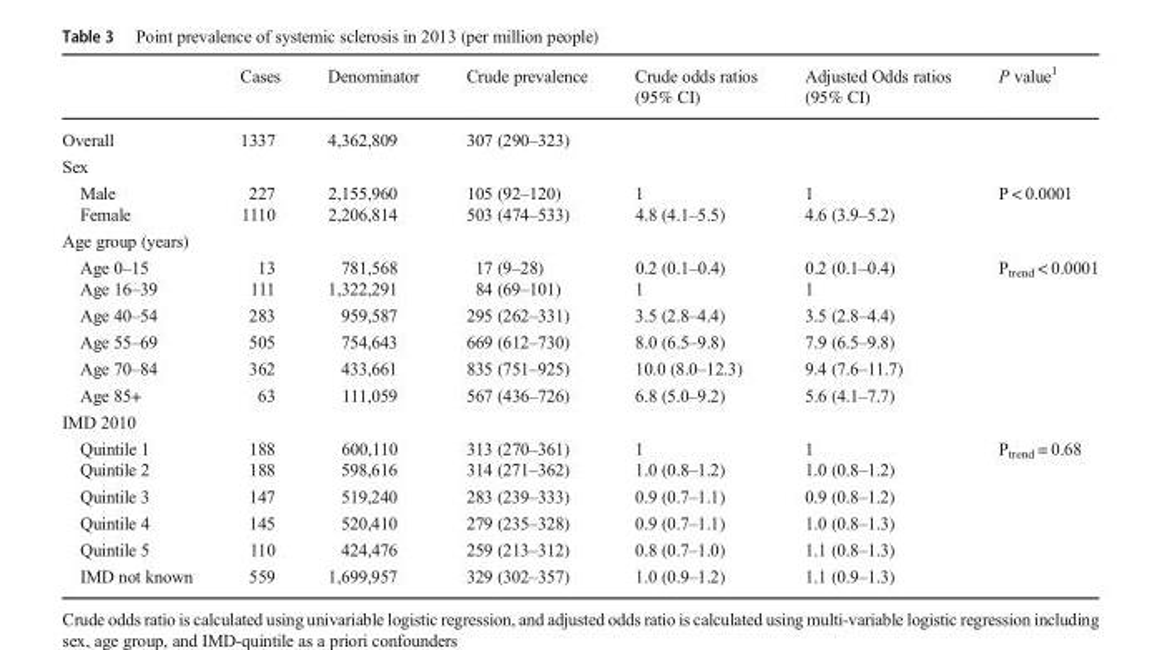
<table><thead><tr><td></td><td>Cases</td><td>Denominator</td><td>Crude prevalence</td><td>Crude odds ratios (95% CI)</td><td>Adjusted Odds ratios (95% CI)</td><td>P value<sup>1</sup></td></tr></thead><tbody><tr><td>Overall</td><td>1337</td><td>4,362,809</td><td>307 (290–323)</td><td></td><td></td><td></td></tr><tr><td colspan="7">Sex</td></tr><tr><td>Male</td><td>227</td><td>2,155,960</td><td>105 (92–120)</td><td>1</td><td>1</td><td rowspan="2">P &lt; 0.0001</td></tr><tr><td>Female</td><td>1110</td><td>2,206,814</td><td>503 (474–533)</td><td>4.8 (4.1–5.5)</td><td>4.6 (3.9–5.2)</td></tr><tr><td colspan="7">Age group (years)</td></tr><tr><td>Age 0–15</td><td>13</td><td>781,568</td><td>17 (9–28)</td><td>0.2 (0.1–0.4)</td><td>0.2 (0.1–0.4)</td><td rowspan="6">P<sub>trend</sub> &lt; 0.0001</td></tr><tr><td>Age 16–39</td><td>111</td><td>1,322,291</td><td>84 (69–101)</td><td>1</td><td>1</td></tr><tr><td>Age 40–54</td><td>283</td><td>959,587</td><td>295 (262–331)</td><td>3.5 (2.8–4.4)</td><td>3.5 (2.8–4.4)</td></tr><tr><td>Age 55–69</td><td>505</td><td>754,643</td><td>669 (612–730)</td><td>8.0 (6.5–9.8)</td><td>7.9 (6.5–9.8)</td></tr><tr><td>Age 70–84</td><td>362</td><td>433,661</td><td>835 (751–925)</td><td>10.0 (8.0–12.3)</td><td>9.4 (7.6–11.7)</td></tr><tr><td>Age 85+</td><td>63</td><td>111,059</td><td>567 (436–726)</td><td>6.8 (5.0–9.2)</td><td>5.6 (4.1–7.7)</td></tr><tr><td colspan="7">IMD 2010</td></tr><tr><td>Quintile 1</td><td>188</td><td>600,110</td><td>313 (270–361)</td><td>1</td><td>1</td><td rowspan="5">P<sub>trend</sub> = 0.68</td></tr><tr><td>Quintile 2</td><td>188</td><td>598,616</td><td>314 (271–362)</td><td>1.0 (0.8–1.2)</td><td>1.0 (0.8–1.2)</td></tr><tr><td>Quintile 3</td><td>147</td><td>519,240</td><td>283 (239–333)</td><td>0.9 (0.7–1.1)</td><td>0.9 (0.8–1.2)</td></tr><tr><td>Quintile 4</td><td>145</td><td>520,410</td><td>279 (235–328)</td><td>0.9 (0.7–1.1)</td><td>1.0 (0.8–1.3)</td></tr><tr><td>Quintile 5</td><td>110</td><td>424,476</td><td>259 (213–312)</td><td>0.8 (0.7–1.0)</td><td>1.1 (0.8–1.3)</td></tr><tr><td>IMD not known</td><td>559</td><td>1,699,957</td><td>329 (302–357)</td><td>1.0 (0.9–1.2)</td><td>1.1 (0.9–1.3)</td><td></td></tr></tbody></table>